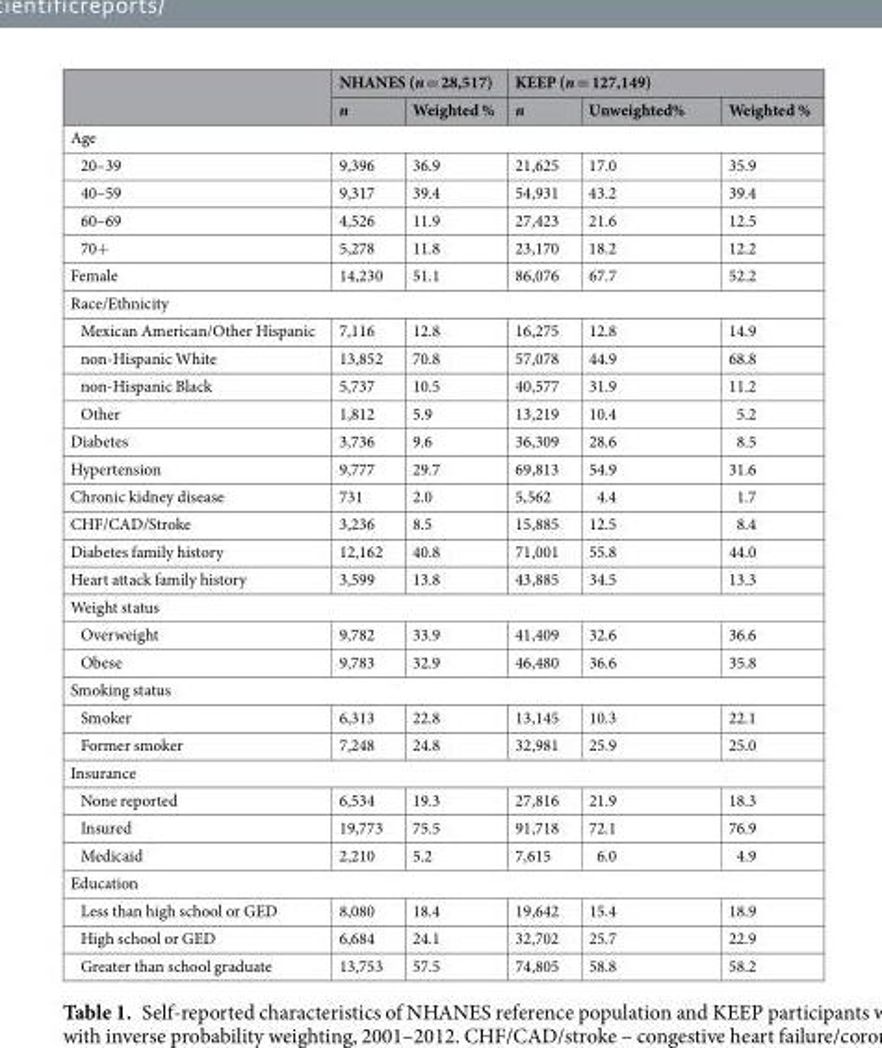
<table><thead><tr><td rowspan="2"></td><td colspan="2">NHANES (n = 28,517)</td><td colspan="3">KEEP (n = 127,149)</td></tr><tr><td>n</td><td>Weighted %</td><td>n</td><td>Unweighted%</td><td>Weighted %</td></tr></thead><tbody><tr><td colspan="6">Age</td></tr><tr><td>20–39</td><td>9,396</td><td>36.9</td><td>21,625</td><td>17.0</td><td>35.9</td></tr><tr><td>40–59</td><td>9,317</td><td>39.4</td><td>54,931</td><td>43.2</td><td>39.4</td></tr><tr><td>60–69</td><td>4,526</td><td>11.9</td><td>27,423</td><td>21.6</td><td>12.5</td></tr><tr><td>70+</td><td>5,278</td><td>11.8</td><td>23,170</td><td>18.2</td><td>12.2</td></tr><tr><td>Female</td><td>14,230</td><td>51.1</td><td>86,076</td><td>67.7</td><td>52.2</td></tr><tr><td colspan="6">Race/Ethnicity</td></tr><tr><td>Mexican American/Other Hispanic</td><td>7,116</td><td>12.8</td><td>16,275</td><td>12.8</td><td>14.9</td></tr><tr><td>non-Hispanic White</td><td>13,852</td><td>70.8</td><td>57,078</td><td>44.9</td><td>68.8</td></tr><tr><td>non-Hispanic Black</td><td>5,737</td><td>10.5</td><td>40,577</td><td>31.9</td><td>11.2</td></tr><tr><td>Other</td><td>1,812</td><td>5.9</td><td>13,219</td><td>10.4</td><td>5.2</td></tr><tr><td>Diabetes</td><td>3,736</td><td>9.6</td><td>36,309</td><td>28.6</td><td>8.5</td></tr><tr><td>Hypertension</td><td>9,777</td><td>29.7</td><td>69,813</td><td>54.9</td><td>31.6</td></tr><tr><td>Chronic kidney disease</td><td>731</td><td>2.0</td><td>5,562</td><td>4.4</td><td>1.7</td></tr><tr><td>CHF/CAD/Stroke</td><td>3,236</td><td>8.5</td><td>15,885</td><td>12.5</td><td>8.4</td></tr><tr><td>Diabetes family history</td><td>12,162</td><td>40.8</td><td>71,001</td><td>55.8</td><td>44.0</td></tr><tr><td>Heart attack family history</td><td>3,599</td><td>13.8</td><td>43,885</td><td>34.5</td><td>13.3</td></tr><tr><td colspan="6">Weight status</td></tr><tr><td>Overweight</td><td>9,782</td><td>33.9</td><td>41,409</td><td>32.6</td><td>36.6</td></tr><tr><td>Obese</td><td>9,783</td><td>32.9</td><td>46,480</td><td>36.6</td><td>35.8</td></tr><tr><td colspan="6">Smoking status</td></tr><tr><td>Smoker</td><td>6,313</td><td>22.8</td><td>13,145</td><td>10.3</td><td>22.1</td></tr><tr><td>Former smoker</td><td>7,248</td><td>24.8</td><td>32,981</td><td>25.9</td><td>25.0</td></tr><tr><td colspan="6">Insurance</td></tr><tr><td>None reported</td><td>6,534</td><td>19.3</td><td>27,816</td><td>21.9</td><td>18.3</td></tr><tr><td>Insured</td><td>19,773</td><td>75.5</td><td>91,718</td><td>72.1</td><td>76.9</td></tr><tr><td>Medicaid</td><td>2,210</td><td>5.2</td><td>7,615</td><td>6.0</td><td>4.9</td></tr><tr><td colspan="6">Education</td></tr><tr><td>Less than high school or GED</td><td>8,080</td><td>18.4</td><td>19,642</td><td>15.4</td><td>18.9</td></tr><tr><td>High school or GED</td><td>6,684</td><td>24.1</td><td>32,702</td><td>25.7</td><td>22.9</td></tr><tr><td>Greater than school graduate</td><td>13,753</td><td>57.5</td><td>74,805</td><td>58.8</td><td>58.2</td></tr></tbody></table>